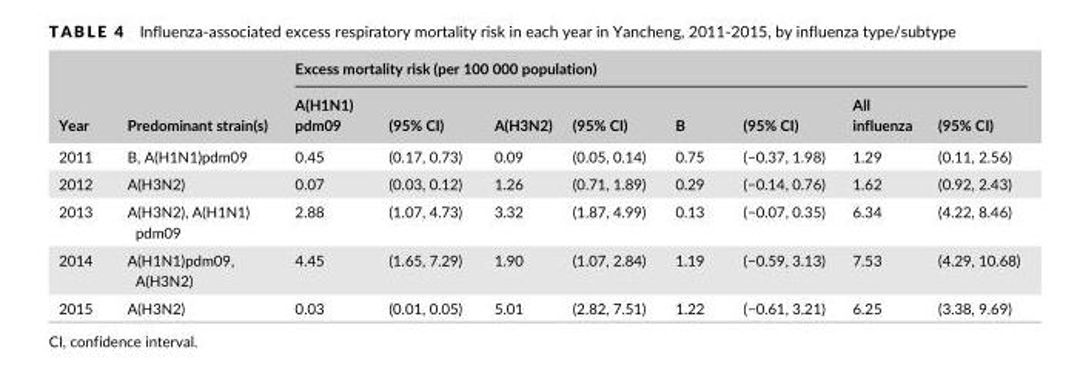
<table><thead><tr><td rowspan="2">Year</td><td rowspan="2">Predominant strain(s)</td><td colspan="8">Excess mortality risk (per 100 000 population)</td></tr><tr><td>A(H1N1) pdm09</td><td>(95% CI)</td><td>A(H3N2)</td><td>(95% CI)</td><td>B</td><td>(95% CI)</td><td>All influenza</td><td>(95% CI)</td></tr></thead><tbody><tr><td>2011</td><td>B, A(H1N1)pdm09</td><td>0.45</td><td>(0.17, 0.73)</td><td>0.09</td><td>(0.05, 0.14)</td><td>0.75</td><td>(−0.37, 1.98)</td><td>1.29</td><td>(0.11, 2.56)</td></tr><tr><td>2012</td><td>A(H3N2)</td><td>0.07</td><td>(0.03, 0.12)</td><td>1.26</td><td>(0.71, 1.89)</td><td>0.29</td><td>(−0.14, 0.76)</td><td>1.62</td><td>(0.92, 2.43)</td></tr><tr><td>2013</td><td>A(H3N2), A(H1N1) pdm09</td><td>2.88</td><td>(1.07, 4.73)</td><td>3.32</td><td>(1.87, 4.99)</td><td>0.13</td><td>(−0.07, 0.35)</td><td>6.34</td><td>(4.22, 8.46)</td></tr><tr><td>2014</td><td>A(H1N1)pdm09, A(H3N2)</td><td>4.45</td><td>(1.65, 7.29)</td><td>1.90</td><td>(1.07, 2.84)</td><td>1.19</td><td>(−0.59, 3.13)</td><td>7.53</td><td>(4.29, 10.68)</td></tr><tr><td>2015</td><td>A(H3N2)</td><td>0.03</td><td>(0.01, 0.05)</td><td>5.01</td><td>(2.82, 7.51)</td><td>1.22</td><td>(−0.61, 3.21)</td><td>6.25</td><td>(3.38, 9.69)</td></tr></tbody></table>